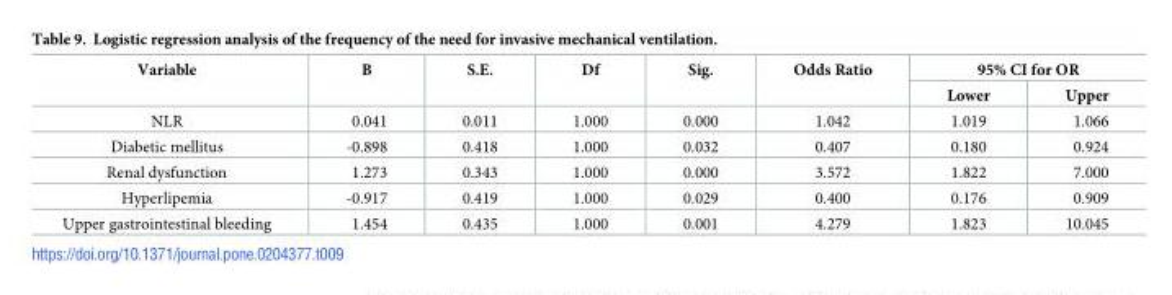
<table><thead><tr><td rowspan="2">Variable</td><td rowspan="2">B</td><td rowspan="2">S.E.</td><td rowspan="2">Df</td><td rowspan="2">Sig.</td><td rowspan="2">Odds Ratio</td><td colspan="2">95% CI for OR</td></tr><tr><td>Lower</td><td>Upper</td></tr></thead><tbody><tr><td>NLR</td><td>0.041</td><td>0.011</td><td>1.000</td><td>0.000</td><td>1.042</td><td>1.019</td><td>1.066</td></tr><tr><td>Diabetic mellitus</td><td>-0.898</td><td>0.418</td><td>1.000</td><td>0.032</td><td>0.407</td><td>0.180</td><td>0.924</td></tr><tr><td>Renal dysfunction</td><td>1.273</td><td>0.343</td><td>1.000</td><td>0.000</td><td>3.572</td><td>1.822</td><td>7.000</td></tr><tr><td>Hyperlipemia</td><td>-0.917</td><td>0.419</td><td>1.000</td><td>0.029</td><td>0.400</td><td>0.176</td><td>0.909</td></tr><tr><td>Upper gastrointestinal bleeding</td><td>1.454</td><td>0.435</td><td>1.000</td><td>0.001</td><td>4.279</td><td>1.823</td><td>10.045</td></tr></tbody></table>